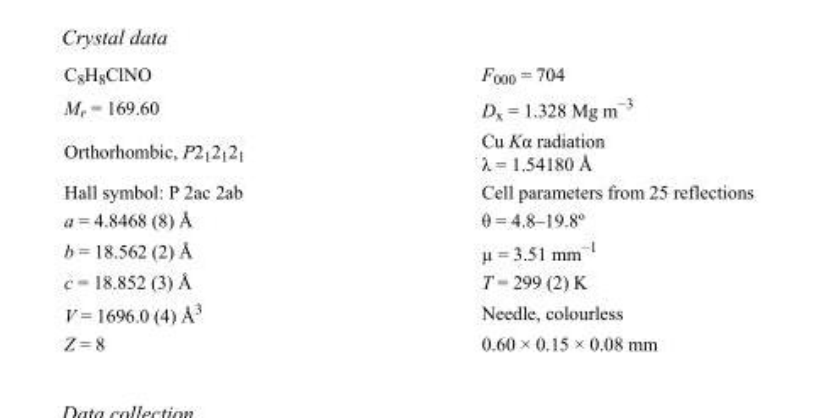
<table><tbody><tr><td>C<sub>8</sub>H<sub>8</sub>ClNO</td><td>F<sub>000</sub> = 704</td></tr><tr><td>M<sub>r</sub> = 169.60</td><td>D<sub>x</sub> = 1.328 Mg m<sup>−3</sup></td></tr><tr><td>Orthorhombic, P2<sub>1</sub>2<sub>1</sub>2<sub>1</sub></td><td>Cu Kα radiation λ = 1.54180 Å</td></tr><tr><td>Hall symbol: P 2ac 2ab</td><td>Cell parameters from 25 reflections</td></tr><tr><td>a = 4.8468 (8) Å</td><td>θ = 4.8–19.8º</td></tr><tr><td>b = 18.562 (2) Å</td><td>µ = 3.51 mm<sup>−1</sup></td></tr><tr><td>c = 18.852 (3) Å</td><td>T = 299 (2) K</td></tr><tr><td>V = 1696.0 (4) Å<sup>3</sup></td><td>Needle, colourless</td></tr><tr><td>Z = 8</td><td>0.60 × 0.15 × 0.08 mm</td></tr></tbody></table>